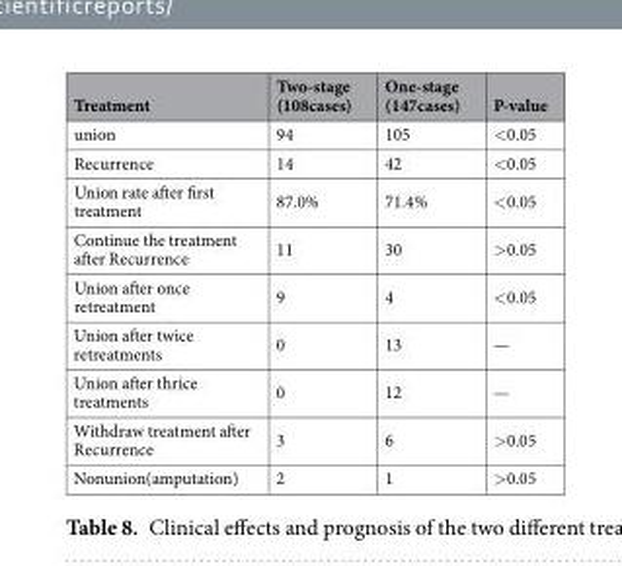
<table><thead><tr><td>Treatment</td><td>Two-stage (108cases)</td><td>One-stage (147cases)</td><td>P-value</td></tr></thead><tbody><tr><td>union</td><td>94</td><td>105</td><td>&lt;0.05</td></tr><tr><td>Recurrence</td><td>14</td><td>42</td><td>&lt;0.05</td></tr><tr><td>Union rate after first treatment</td><td>87.0%</td><td>71.4%</td><td>&lt;0.05</td></tr><tr><td>Continue the treatment after Recurrence</td><td>11</td><td>30</td><td>&gt;0.05</td></tr><tr><td>Union after once retreatment</td><td>9</td><td>4</td><td>&lt;0.05</td></tr><tr><td>Union after twice retreatments</td><td>0</td><td>13</td><td>—</td></tr><tr><td>Union after thrice treatments</td><td>0</td><td>12</td><td>—</td></tr><tr><td>Withdraw treatment after Recurrence</td><td>3</td><td>6</td><td>&gt;0.05</td></tr><tr><td>Nonunion(amputation)</td><td>2</td><td>1</td><td>&gt;0.05</td></tr></tbody></table>